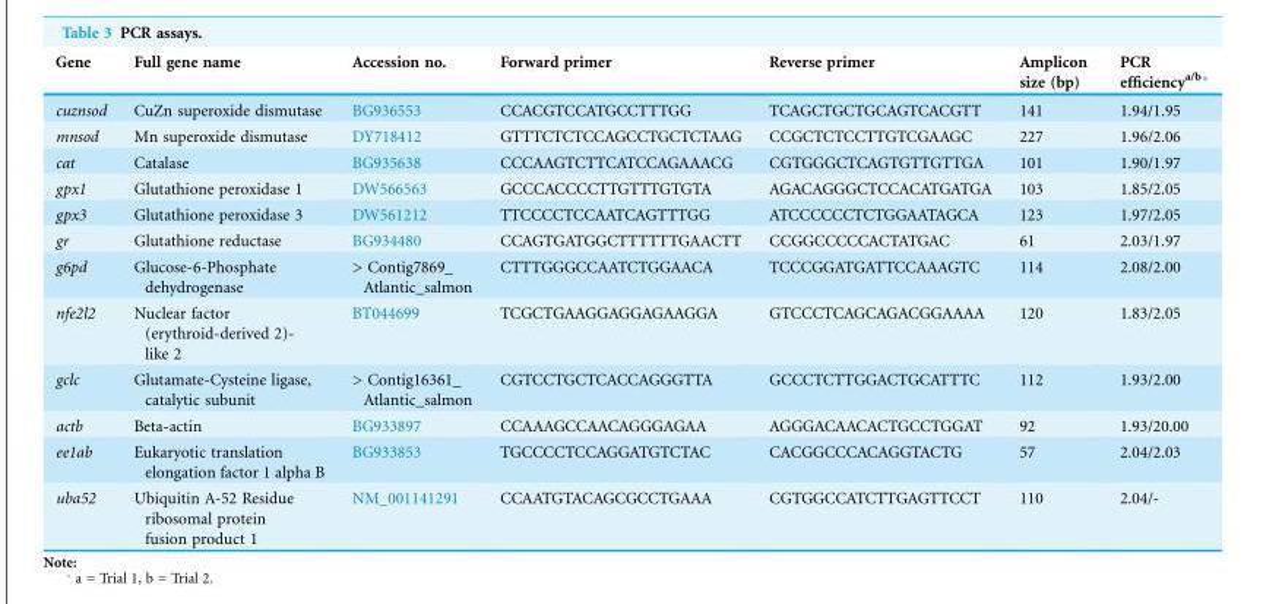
<table><thead><tr><td>Gene</td><td>Full gene name</td><td>Accession no.</td><td>Forward primer</td><td>Reverse primer</td><td>Amplicon size (bp)</td><td>PCR efficiency<sup>a/b</sup>*</td></tr></thead><tbody><tr><td>cuznsod</td><td>CuZn superoxide dismutase</td><td>BG936553</td><td>CCACGTCCATGCCTTTGG</td><td>TCAGCTGCTGCAGTCACGTT</td><td>141</td><td>1.94/1.95</td></tr><tr><td>mnsod</td><td>Mn superoxide dismutase</td><td>DY718412</td><td>GTTTCTCTCCAGCCTGCTCTAAG</td><td>CCGCTCTCCTTGTCGAAGC</td><td>227</td><td>1.96/2.06</td></tr><tr><td>cat</td><td>Catalase</td><td>BG935638</td><td>CCCAAGTCTTCATCCAGAAACG</td><td>CGTGGGCTCAGTGTTGTTGA</td><td>101</td><td>1.90/1.97</td></tr><tr><td>gpx1</td><td>Glutathione peroxidase 1</td><td>DW566563</td><td>GCCCACCCCTTGTTTGTGTA</td><td>AGACAGGGCTCCACATGATGA</td><td>103</td><td>1.85/2.05</td></tr><tr><td>gpx3</td><td>Glutathione peroxidase 3</td><td>DW561212</td><td>TTCCCCTCCAATCAGTTTGG</td><td>ATCCCCCCTCTGGAATAGCA</td><td>123</td><td>1.97/2.05</td></tr><tr><td>gr</td><td>Glutathione reductase</td><td>BG934480</td><td>CCAGTGATGGCTTTTTTGAACTT</td><td>CCGGCCCCCACTATGAC</td><td>61</td><td>2.03/1.97</td></tr><tr><td>g6pd</td><td>Glucose-6-Phosphate dehydrogenase</td><td>&gt; Contig7869_ Atlantic_salmon</td><td>CTTTGGGCCAATCTGGAACA</td><td>TCCCGGATGATTCCAAAGTC</td><td>114</td><td>2.08/2.00</td></tr><tr><td>nfe2l2</td><td>Nuclear factor (erythroid-derived 2)- like 2</td><td>BT044699</td><td>TCGCTGAAGGAGGAGAAGGA</td><td>GTCCCTCAGCAGACGGAAAA</td><td>120</td><td>1.83/2.05</td></tr><tr><td>gclc</td><td>Glutamate-Cysteine ligase, catalytic subunit</td><td>&gt; Contig16361_ Atlantic_salmon</td><td>CGTCCTGCTCACCAGGGTTA</td><td>GCCCTCTTGGACTGCATTTC</td><td>112</td><td>1.93/2.00</td></tr><tr><td>actb</td><td>Beta-actin</td><td>BG933897</td><td>CCAAAGCCAACAGGGAGAA</td><td>AGGGACAACACTGCCTGGAT</td><td>92</td><td>1.93/20.00</td></tr><tr><td>ee1ab</td><td>Eukaryotic translation elongation factor 1 alpha B</td><td>BG933853</td><td>TGCCCCTCCAGGATGTCTAC</td><td>CACGGCCCACAGGTACTG</td><td>57</td><td>2.04/2.03</td></tr><tr><td>uba52</td><td>Ubiquitin A-52 Residue ribosomal protein fusion product 1</td><td>NM_001141291</td><td>CCAATGTACAGCGCCTGAAA</td><td>CGTGGCCATCTTGAGTTCCT</td><td>110</td><td>2.04/-</td></tr></tbody></table>